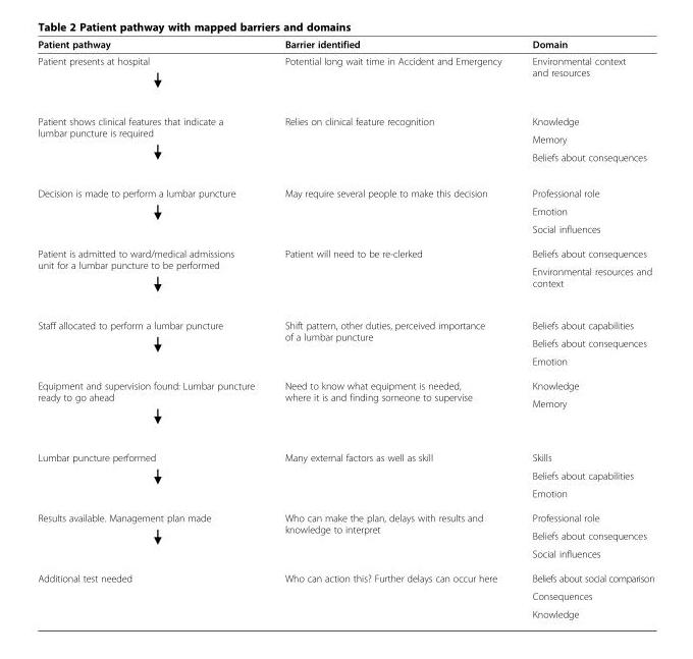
<table><thead><tr><td>Patient pathway</td><td>Barrier identified</td><td>Domain</td></tr></thead><tbody><tr><td>Patient presents at hospital</td><td>Potential long wait time in Accident and Emergency</td><td>Environmental context and resources</td></tr><tr><td rowspan="3">Patient shows clinical features that indicate a lumbar puncture is required</td><td rowspan="3">Relies on clinical feature recognition</td><td>Knowledge</td></tr><tr><td>Memory</td></tr><tr><td>Beliefs about consequences</td></tr><tr><td rowspan="3">Decision is made to perform a lumbar puncture</td><td rowspan="3">May require several people to make this decision</td><td>Professional role</td></tr><tr><td>Emotion</td></tr><tr><td>Social influences</td></tr><tr><td rowspan="2">Patient is admitted to ward/medical admissions unit for a lumbar puncture to be performed</td><td rowspan="2">Patient will need to be re-clerked</td><td>Beliefs about consequences</td></tr><tr><td>Environmental resources and context</td></tr><tr><td rowspan="3">Staff allocated to perform a lumbar puncture</td><td rowspan="3">Shift pattern, other duties, perceived importance of a lumbar puncture</td><td>Beliefs about capabilities</td></tr><tr><td>Beliefs about consequences</td></tr><tr><td>Emotion</td></tr><tr><td rowspan="2">Equipment and supervision found: Lumbar puncture ready to go ahead</td><td rowspan="2">Need to know what equipment is needed, where it is and finding someone to supervise</td><td>Knowledge</td></tr><tr><td>Memory</td></tr><tr><td rowspan="3">Lumbar puncture performed</td><td rowspan="3">Many external factors as well as skill</td><td>Skills</td></tr><tr><td>Beliefs about capabilities</td></tr><tr><td>Emotion</td></tr><tr><td rowspan="3">Results available. Management plan made</td><td rowspan="3">Who can make the plan, delays with results and knowledge to interpret</td><td>Professional role</td></tr><tr><td>Beliefs about consequences</td></tr><tr><td>Social influences</td></tr><tr><td rowspan="3">Additional test needed</td><td rowspan="3">Who can action this? Further delays can occur here</td><td>Beliefs about social comparison</td></tr><tr><td>Consequences</td></tr><tr><td>Knowledge</td></tr></tbody></table>